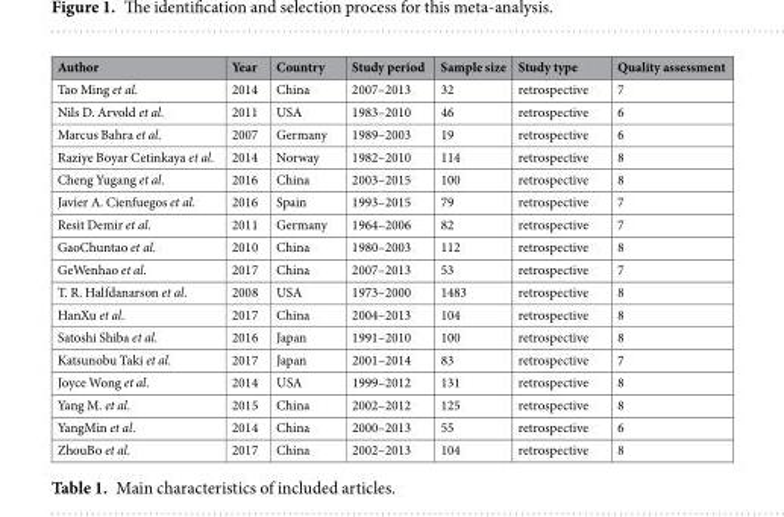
<table><thead><tr><td>Author</td><td>Year</td><td>Country</td><td>Study period</td><td>Sample size</td><td>Study type</td><td>Quality assessment</td></tr></thead><tbody><tr><td>Tao Ming et al.</td><td>2014</td><td>China</td><td>2007–2013</td><td>32</td><td>retrospective</td><td>7</td></tr><tr><td>Nils D. Arvold et al.</td><td>2011</td><td>USA</td><td>1983–2010</td><td>46</td><td>retrospective</td><td>6</td></tr><tr><td>Marcus Bahra et al.</td><td>2007</td><td>Germany</td><td>1989–2003</td><td>19</td><td>retrospective</td><td>6</td></tr><tr><td>Raziye Boyar Cetinkaya et al.</td><td>2014</td><td>Norway</td><td>1982–2010</td><td>114</td><td>retrospective</td><td>8</td></tr><tr><td>Cheng Yugang et al.</td><td>2016</td><td>China</td><td>2003–2015</td><td>100</td><td>retrospective</td><td>8</td></tr><tr><td>Javier A. Cienfuegos et al.</td><td>2016</td><td>Spain</td><td>1993–2015</td><td>79</td><td>retrospective</td><td>7</td></tr><tr><td>Resit Demir et al.</td><td>2011</td><td>Germany</td><td>1964–2006</td><td>82</td><td>retrospective</td><td>7</td></tr><tr><td>GaoChuntao et al.</td><td>2010</td><td>China</td><td>1980–2003</td><td>112</td><td>retrospective</td><td>8</td></tr><tr><td>GeWenhao et al.</td><td>2017</td><td>China</td><td>2007–2013</td><td>53</td><td>retrospective</td><td>7</td></tr><tr><td>T. R. Halfdanarson et al.</td><td>2008</td><td>USA</td><td>1973–2000</td><td>1483</td><td>retrospective</td><td>8</td></tr><tr><td>HanXu et al.</td><td>2017</td><td>China</td><td>2004–2013</td><td>104</td><td>retrospective</td><td>8</td></tr><tr><td>Satoshi Shiba et al.</td><td>2016</td><td>Japan</td><td>1991–2010</td><td>100</td><td>retrospective</td><td>8</td></tr><tr><td>Katsunobu Taki et al.</td><td>2017</td><td>Japan</td><td>2001–2014</td><td>83</td><td>retrospective</td><td>7</td></tr><tr><td>Joyce Wong et al.</td><td>2014</td><td>USA</td><td>1999–2012</td><td>131</td><td>retrospective</td><td>8</td></tr><tr><td>Yang M. et al.</td><td>2015</td><td>China</td><td>2002–2012</td><td>125</td><td>retrospective</td><td>8</td></tr><tr><td>YangMin et al.</td><td>2014</td><td>China</td><td>2000–2013</td><td>55</td><td>retrospective</td><td>6</td></tr><tr><td>ZhouBo et al.</td><td>2017</td><td>China</td><td>2002–2013</td><td>104</td><td>retrospective</td><td>8</td></tr></tbody></table>